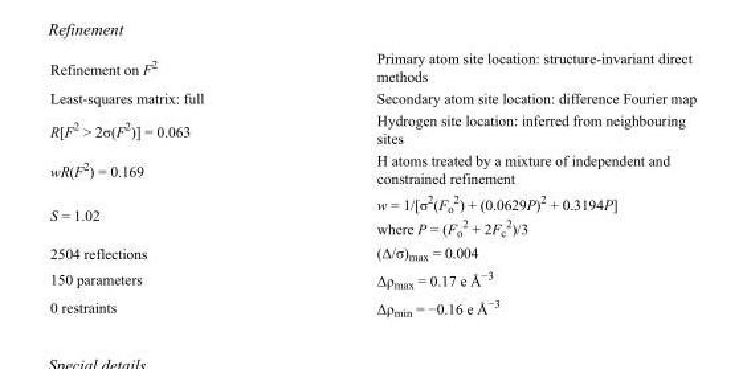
<table><tbody><tr><td>Refinement on F<sup>2</sup></td><td>Primary atom site location: structure-invariant direct methods</td></tr><tr><td>Least-squares matrix: full</td><td>Secondary atom site location: difference Fourier map</td></tr><tr><td>R[F<sup>2</sup> &gt; 2σ(F<sup>2</sup>)] = 0.063</td><td>Hydrogen site location: inferred from neighbouring sites</td></tr><tr><td>wR(F<sup>2</sup>) = 0.169</td><td>H atoms treated by a mixture of independent and constrained refinement</td></tr><tr><td>S = 1.02</td><td>w = 1/[σ<sup>2</sup>(F<sub>o</sub> <sup>2</sup>) + (0.0629P)<sup>2</sup> + 0.3194P] where P = (F<sub>o</sub> <sup>2</sup> + 2F<sub>c</sub> <sup>2</sup>)/3</td></tr><tr><td>2504 reflections</td><td>(Δ/σ)<sub>max</sub> = 0.004</td></tr><tr><td>150 parameters</td><td>Δρ<sub>max</sub> = 0.17 e Å<sup>−3</sup></td></tr><tr><td>0 restraints</td><td>Δρ<sub>min</sub> = −0.16 e Å<sup>−3</sup></td></tr></tbody></table>